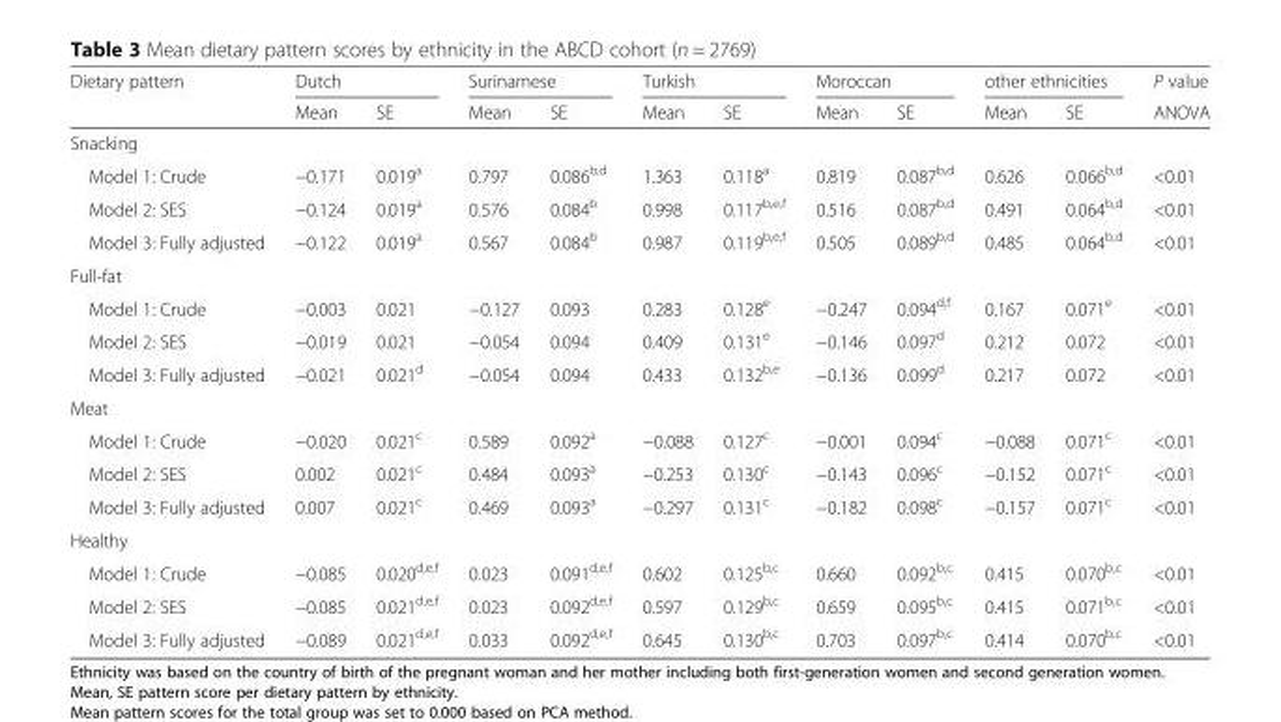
<table><thead><tr><td rowspan="2">Dietary pattern</td><td colspan="2">Dutch</td><td colspan="2">Surinamese</td><td colspan="2">Turkish</td><td colspan="2">Moroccan</td><td colspan="2">other ethnicities</td><td rowspan="2">P value ANOVA</td></tr><tr><td>Mean</td><td>SE</td><td>Mean</td><td>SE</td><td>Mean</td><td>SE</td><td>Mean</td><td>SE</td><td>Mean</td><td>SE</td></tr></thead><tbody><tr><td colspan="12">Snacking</td></tr><tr><td>Model 1: Crude</td><td>−0.171</td><td>0.019<sup>a</sup></td><td>0.797</td><td>0.086<sup>b,d</sup></td><td>1.363</td><td>0.118<sup>a</sup></td><td>0.819</td><td>0.087<sup>b,d</sup></td><td>0.626</td><td>0.066<sup>b,d</sup></td><td>&lt;0.01</td></tr><tr><td>Model 2: SES</td><td>−0.124</td><td>0.019<sup>a</sup></td><td>0.576</td><td>0.084<sup>b</sup></td><td>0.998</td><td>0.117<sup>b,e,f</sup></td><td>0.516</td><td>0.087<sup>b,d</sup></td><td>0.491</td><td>0.064<sup>b,d</sup></td><td>&lt;0.01</td></tr><tr><td>Model 3: Fully adjusted</td><td>−0.122</td><td>0.019<sup>a</sup></td><td>0.567</td><td>0.084<sup>b</sup></td><td>0.987</td><td>0.119<sup>b,e,f</sup></td><td>0.505</td><td>0.089<sup>b,d</sup></td><td>0.485</td><td>0.064<sup>b,d</sup></td><td>&lt;0.01</td></tr><tr><td colspan="12">Full-fat</td></tr><tr><td>Model 1: Crude</td><td>−0.003</td><td>0.021</td><td>−0.127</td><td>0.093</td><td>0.283</td><td>0.128<sup>e</sup></td><td>−0.247</td><td>0.094<sup>d,f</sup></td><td>0.167</td><td>0.071<sup>e</sup></td><td>&lt;0.01</td></tr><tr><td>Model 2: SES</td><td>−0.019</td><td>0.021</td><td>−0.054</td><td>0.094</td><td>0.409</td><td>0.131<sup>e</sup></td><td>−0.146</td><td>0.097<sup>d</sup></td><td>0.212</td><td>0.072</td><td>&lt;0.01</td></tr><tr><td>Model 3: Fully adjusted</td><td>−0.021</td><td>0.021<sup>d</sup></td><td>−0.054</td><td>0.094</td><td>0.433</td><td>0.132<sup>b,e</sup></td><td>−0.136</td><td>0.099<sup>d</sup></td><td>0.217</td><td>0.072</td><td>&lt;0.01</td></tr><tr><td colspan="12">Meat</td></tr><tr><td>Model 1: Crude</td><td>−0.020</td><td>0.021<sup>c</sup></td><td>0.589</td><td>0.092<sup>a</sup></td><td>−0.088</td><td>0.127<sup>c</sup></td><td>−0.001</td><td>0.094<sup>c</sup></td><td>−0.088</td><td>0.071<sup>c</sup></td><td>&lt;0.01</td></tr><tr><td>Model 2: SES</td><td>0.002</td><td>0.021<sup>c</sup></td><td>0.484</td><td>0.093<sup>a</sup></td><td>−0.253</td><td>0.130<sup>c</sup></td><td>−0.143</td><td>0.096<sup>c</sup></td><td>−0.152</td><td>0.071<sup>c</sup></td><td>&lt;0.01</td></tr><tr><td>Model 3: Fully adjusted</td><td>0.007</td><td>0.021<sup>c</sup></td><td>0.469</td><td>0.093<sup>a</sup></td><td>−0.297</td><td>0.131<sup>c</sup></td><td>−0.182</td><td>0.098<sup>c</sup></td><td>−0.157</td><td>0.071<sup>c</sup></td><td>&lt;0.01</td></tr><tr><td colspan="12">Healthy</td></tr><tr><td>Model 1: Crude</td><td>−0.085</td><td>0.020<sup>d,e,f</sup></td><td>0.023</td><td>0.091<sup>d,e,f</sup></td><td>0.602</td><td>0.125<sup>b,c</sup></td><td>0.660</td><td>0.092<sup>b,c</sup></td><td>0.415</td><td>0.070<sup>b,c</sup></td><td>&lt;0.01</td></tr><tr><td>Model 2: SES</td><td>−0.085</td><td>0.021<sup>d,e,f</sup></td><td>0.023</td><td>0.092<sup>d,e,f</sup></td><td>0.597</td><td>0.129<sup>b,c</sup></td><td>0.659</td><td>0.095<sup>b,c</sup></td><td>0.415</td><td>0.071<sup>b,c</sup></td><td>&lt;0.01</td></tr><tr><td>Model 3: Fully adjusted</td><td>−0.089</td><td>0.021<sup>d,e,f</sup></td><td>0.033</td><td>0.092<sup>d,e,f</sup></td><td>0.645</td><td>0.130<sup>b,c</sup></td><td>0.703</td><td>0.097<sup>b,c</sup></td><td>0.414</td><td>0.070<sup>b,c</sup></td><td>&lt;0.01</td></tr></tbody></table>